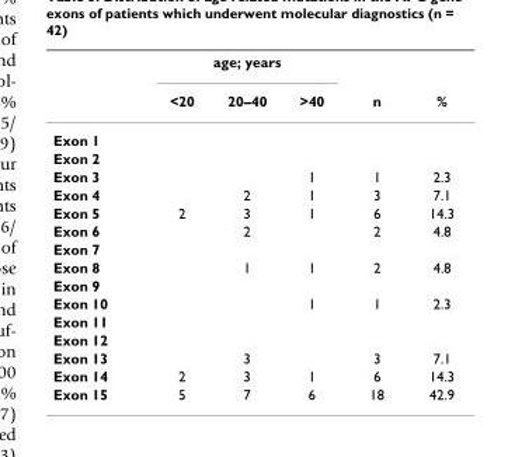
<table><thead><tr><td rowspan="2"></td><td colspan="3">age; years</td><td rowspan="2">n</td><td rowspan="2">%</td></tr><tr><td>&lt;20</td><td>20–40</td><td>&gt;40</td></tr></thead><tbody><tr><td colspan="6">Exon 1</td></tr><tr><td colspan="6">Exon 2</td></tr><tr><td>Exon 3</td><td></td><td></td><td>1</td><td>1</td><td>2.3</td></tr><tr><td>Exon 4</td><td></td><td>2</td><td>1</td><td>3</td><td>7.1</td></tr><tr><td>Exon 5</td><td>2</td><td>3</td><td>1</td><td>6</td><td>14.3</td></tr><tr><td>Exon 6</td><td></td><td>2</td><td></td><td>2</td><td>4.8</td></tr><tr><td colspan="6">Exon 7</td></tr><tr><td>Exon 8</td><td></td><td>1</td><td>1</td><td>2</td><td>4.8</td></tr><tr><td colspan="6">Exon 9</td></tr><tr><td>Exon 10</td><td></td><td></td><td>1</td><td>1</td><td>2.3</td></tr><tr><td colspan="6">Exon 11</td></tr><tr><td colspan="6">Exon 12</td></tr><tr><td>Exon 13</td><td></td><td>3</td><td></td><td>3</td><td>7.1</td></tr><tr><td>Exon 14</td><td>2</td><td>3</td><td>1</td><td>6</td><td>14.3</td></tr><tr><td>Exon 15</td><td>5</td><td>7</td><td>6</td><td>18</td><td>42.9</td></tr></tbody></table>